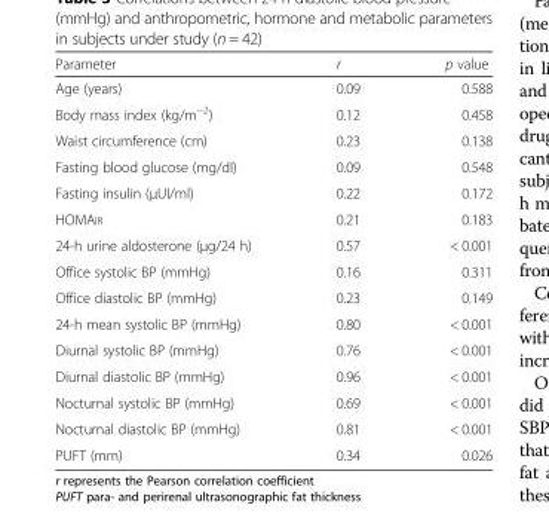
<table><thead><tr><td>Parameter</td><td>r</td><td>p value</td></tr></thead><tbody><tr><td>Age (years)</td><td>0.09</td><td>0.588</td></tr><tr><td>Body mass index (kg/m<sup>−2</sup>)</td><td>0.12</td><td>0.458</td></tr><tr><td>Waist circumference (cm)</td><td>0.23</td><td>0.138</td></tr><tr><td>Fasting blood glucose (mg/dl)</td><td>0.09</td><td>0.548</td></tr><tr><td>Fasting insulin (μUI/ml)</td><td>0.22</td><td>0.172</td></tr><tr><td>HOMAIR</td><td>0.21</td><td>0.183</td></tr><tr><td>24-h urine aldosterone (μg/24 h)</td><td>0.57</td><td>&lt; 0.001</td></tr><tr><td>Office systolic BP (mmHg)</td><td>0.16</td><td>0.311</td></tr><tr><td>Office diastolic BP (mmHg)</td><td>0.23</td><td>0.149</td></tr><tr><td>24-h mean systolic BP (mmHg)</td><td>0.80</td><td>&lt; 0.001</td></tr><tr><td>Diurnal systolic BP (mmHg)</td><td>0.76</td><td>&lt; 0.001</td></tr><tr><td>Diurnal diastolic BP (mmHg)</td><td>0.96</td><td>&lt; 0.001</td></tr><tr><td>Nocturnal systolic BP (mmHg)</td><td>0.69</td><td>&lt; 0.001</td></tr><tr><td>Nocturnal diastolic BP (mmHg)</td><td>0.81</td><td>&lt; 0.001</td></tr><tr><td>PUFT (mm)</td><td>0.34</td><td>0.026</td></tr></tbody></table>